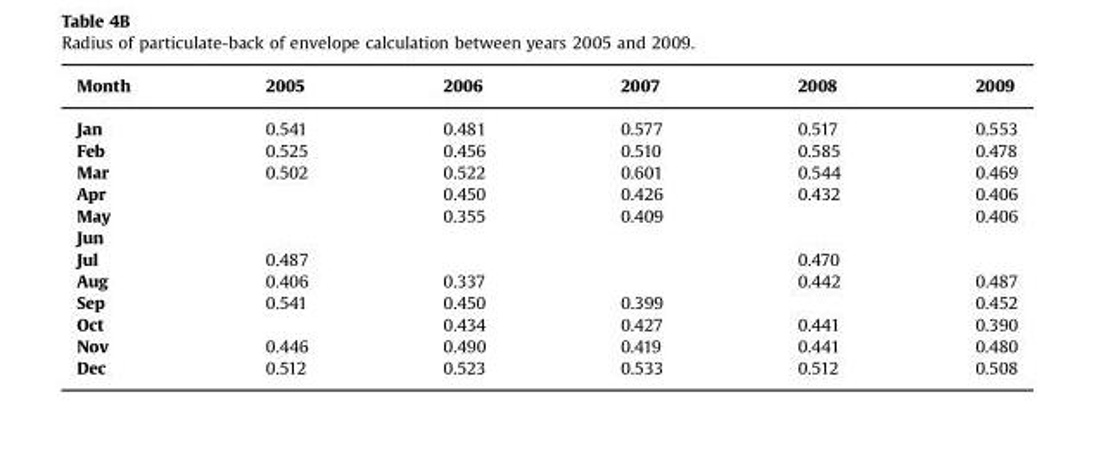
<table><thead><tr><td>Month</td><td>2005</td><td>2006</td><td>2007</td><td>2008</td><td>2009</td></tr></thead><tbody><tr><td>Jan</td><td>0.541</td><td>0.481</td><td>0.577</td><td>0.517</td><td>0.553</td></tr><tr><td>Feb</td><td>0.525</td><td>0.456</td><td>0.510</td><td>0.585</td><td>0.478</td></tr><tr><td>Mar</td><td>0.502</td><td>0.522</td><td>0.601</td><td>0.544</td><td>0.469</td></tr><tr><td>Apr</td><td></td><td>0.450</td><td>0.426</td><td>0.432</td><td>0.406</td></tr><tr><td>May</td><td></td><td>0.355</td><td>0.409</td><td></td><td>0.406</td></tr><tr><td colspan="6">Jun</td></tr><tr><td>Jul</td><td>0.487</td><td></td><td></td><td>0.470</td><td></td></tr><tr><td>Aug</td><td>0.406</td><td>0.337</td><td></td><td>0.442</td><td>0.487</td></tr><tr><td>Sep</td><td>0.541</td><td>0.450</td><td>0.399</td><td></td><td>0.452</td></tr><tr><td>Oct</td><td></td><td>0.434</td><td>0.427</td><td>0.441</td><td>0.390</td></tr><tr><td>Nov</td><td>0.446</td><td>0.490</td><td>0.419</td><td>0.441</td><td>0.480</td></tr><tr><td>Dec</td><td>0.512</td><td>0.523</td><td>0.533</td><td>0.512</td><td>0.508</td></tr></tbody></table>